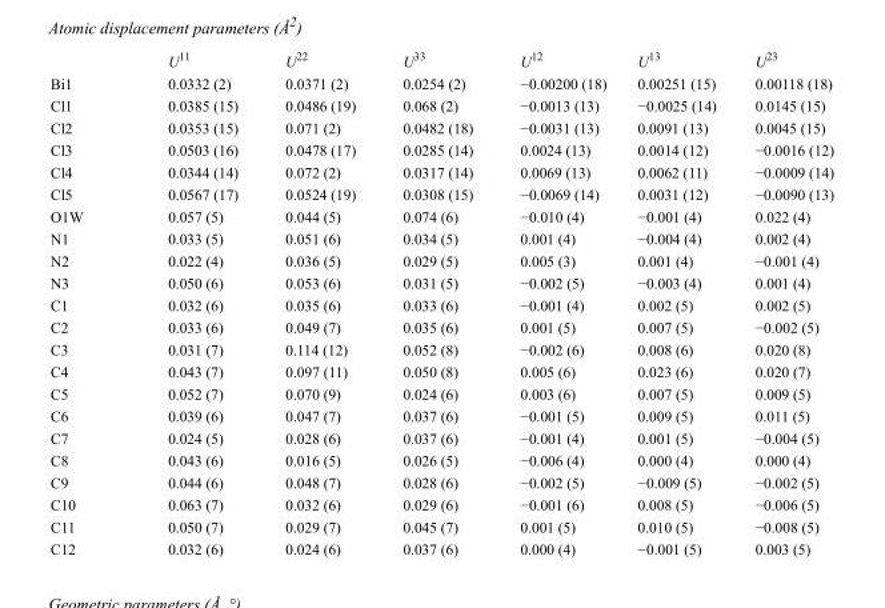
<table><thead><tr><td></td><td>U<sup>11</sup></td><td>U<sup>22</sup></td><td>U<sup>33</sup></td><td>U<sup>12</sup></td><td>U<sup>13</sup></td><td>U<sup>23</sup></td></tr></thead><tbody><tr><td>Bi1</td><td>0.0332 (2)</td><td>0.0371 (2)</td><td>0.0254 (2)</td><td>−0.00200 (18)</td><td>0.00251 (15)</td><td>0.00118 (18)</td></tr><tr><td>Cl1</td><td>0.0385 (15)</td><td>0.0486 (19)</td><td>0.068 (2)</td><td>−0.0013 (13)</td><td>−0.0025 (14)</td><td>0.0145 (15)</td></tr><tr><td>Cl2</td><td>0.0353 (15)</td><td>0.071 (2)</td><td>0.0482 (18)</td><td>−0.0031 (13)</td><td>0.0091 (13)</td><td>0.0045 (15)</td></tr><tr><td>Cl3</td><td>0.0503 (16)</td><td>0.0478 (17)</td><td>0.0285 (14)</td><td>0.0024 (13)</td><td>0.0014 (12)</td><td>−0.0016 (12)</td></tr><tr><td>Cl4</td><td>0.0344 (14)</td><td>0.072 (2)</td><td>0.0317 (14)</td><td>0.0069 (13)</td><td>0.0062 (11)</td><td>−0.0009 (14)</td></tr><tr><td>Cl5</td><td>0.0567 (17)</td><td>0.0524 (19)</td><td>0.0308 (15)</td><td>−0.0069 (14)</td><td>0.0031 (12)</td><td>−0.0090 (13)</td></tr><tr><td>O1W</td><td>0.057 (5)</td><td>0.044 (5)</td><td>0.074 (6)</td><td>−0.010 (4)</td><td>−0.001 (4)</td><td>0.022 (4)</td></tr><tr><td>N1</td><td>0.033 (5)</td><td>0.051 (6)</td><td>0.034 (5)</td><td>0.001 (4)</td><td>−0.004 (4)</td><td>0.002 (4)</td></tr><tr><td>N2</td><td>0.022 (4)</td><td>0.036 (5)</td><td>0.029 (5)</td><td>0.005 (3)</td><td>0.001 (4)</td><td>−0.001 (4)</td></tr><tr><td>N3</td><td>0.050 (6)</td><td>0.053 (6)</td><td>0.031 (5)</td><td>−0.002 (5)</td><td>−0.003 (4)</td><td>0.001 (4)</td></tr><tr><td>C1</td><td>0.032 (6)</td><td>0.035 (6)</td><td>0.033 (6)</td><td>−0.001 (4)</td><td>0.002 (5)</td><td>0.002 (5)</td></tr><tr><td>C2</td><td>0.033 (6)</td><td>0.049 (7)</td><td>0.035 (6)</td><td>0.001 (5)</td><td>0.007 (5)</td><td>−0.002 (5)</td></tr><tr><td>C3</td><td>0.031 (7)</td><td>0.114 (12)</td><td>0.052 (8)</td><td>−0.002 (6)</td><td>0.008 (6)</td><td>0.020 (8)</td></tr><tr><td>C4</td><td>0.043 (7)</td><td>0.097 (11)</td><td>0.050 (8)</td><td>0.005 (6)</td><td>0.023 (6)</td><td>0.020 (7)</td></tr><tr><td>C5</td><td>0.052 (7)</td><td>0.070 (9)</td><td>0.024 (6)</td><td>0.003 (6)</td><td>0.007 (5)</td><td>0.009 (5)</td></tr><tr><td>C6</td><td>0.039 (6)</td><td>0.047 (7)</td><td>0.037 (6)</td><td>−0.001 (5)</td><td>0.009 (5)</td><td>0.011 (5)</td></tr><tr><td>C7</td><td>0.024 (5)</td><td>0.028 (6)</td><td>0.037 (6)</td><td>−0.001 (4)</td><td>0.001 (5)</td><td>−0.004 (5)</td></tr><tr><td>C8</td><td>0.043 (6)</td><td>0.016 (5)</td><td>0.026 (5)</td><td>−0.006 (4)</td><td>0.000 (4)</td><td>0.000 (4)</td></tr><tr><td>C9</td><td>0.044 (6)</td><td>0.048 (7)</td><td>0.028 (6)</td><td>−0.002 (5)</td><td>−0.009 (5)</td><td>−0.002 (5)</td></tr><tr><td>C10</td><td>0.063 (7)</td><td>0.032 (6)</td><td>0.029 (6)</td><td>−0.001 (6)</td><td>0.008 (5)</td><td>−0.006 (5)</td></tr><tr><td>C11</td><td>0.050 (7)</td><td>0.029 (7)</td><td>0.045 (7)</td><td>0.001 (5)</td><td>0.010 (5)</td><td>−0.008 (5)</td></tr><tr><td>C12</td><td>0.032 (6)</td><td>0.024 (6)</td><td>0.037 (6)</td><td>0.000 (4)</td><td>−0.001 (5)</td><td>0.003 (5)</td></tr></tbody></table>